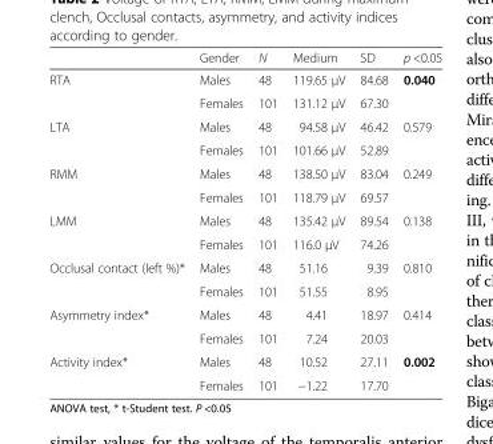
<table><thead><tr><td></td><td>Gender</td><td>N</td><td>Medium</td><td>SD</td><td>p &lt;0.05</td></tr></thead><tbody><tr><td rowspan="2">RTA</td><td>Males</td><td>48</td><td>119.65 μV</td><td>84.68</td><td rowspan="2">0.040</td></tr><tr><td>Females</td><td>101</td><td>131.12 μV</td><td>67.30</td></tr><tr><td rowspan="2">LTA</td><td>Males</td><td>48</td><td>94.58 μV</td><td>46.42</td><td rowspan="2">0.579</td></tr><tr><td>Females</td><td>101</td><td>101.66 μV</td><td>52.89</td></tr><tr><td rowspan="2">RMM</td><td>Males</td><td>48</td><td>138.50 μV</td><td>83.04</td><td rowspan="2">0.249</td></tr><tr><td>Females</td><td>101</td><td>118.79 μV</td><td>69.57</td></tr><tr><td rowspan="2">LMM</td><td>Males</td><td>48</td><td>135.42 μV</td><td>89.54</td><td rowspan="2">0.138</td></tr><tr><td>Females</td><td>101</td><td>116.0 μV</td><td>74.26</td></tr><tr><td rowspan="2">Occlusal contact (left %)*</td><td>Males</td><td>48</td><td>51.16</td><td>9.39</td><td rowspan="2">0.810</td></tr><tr><td>Females</td><td>101</td><td>51.55</td><td>8.95</td></tr><tr><td rowspan="2">Asymmetry index*</td><td>Males</td><td>48</td><td>4.41</td><td>18.97</td><td rowspan="2">0.414</td></tr><tr><td>Females</td><td>101</td><td>7.24</td><td>20.03</td></tr><tr><td rowspan="2">Activity index*</td><td>Males</td><td>48</td><td>10.52</td><td>27.11</td><td rowspan="2">0.002</td></tr><tr><td>Females</td><td>101</td><td>−1.22</td><td>17.70</td></tr></tbody></table>